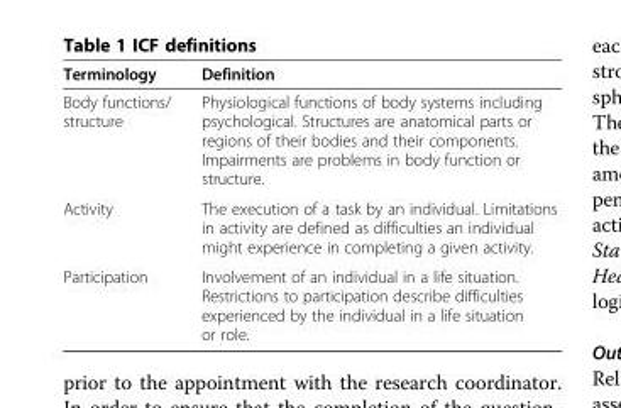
<table><thead><tr><td>Terminology</td><td>Definition</td></tr></thead><tbody><tr><td>Body functions/ structure</td><td>Physiological functions of body systems including psychological. Structures are anatomical parts or regions of their bodies and their components. Impairments are problems in body function or structure.</td></tr><tr><td>Activity</td><td>The execution of a task by an individual. Limitations in activity are defined as difficulties an individual might experience in completing a given activity.</td></tr><tr><td>Participation</td><td>Involvement of an individual in a life situation. Restrictions to participation describe difficulties experienced by the individual in a life situation or role.</td></tr></tbody></table>